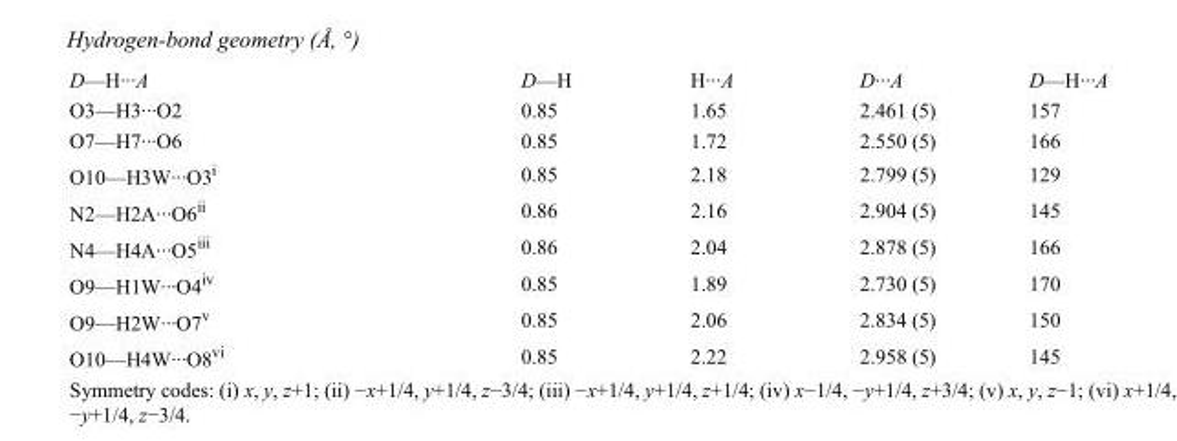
<table><tbody><tr><td>D—H···A</td><td>D—H</td><td>H···A</td><td>D···A</td><td>D—H···A</td></tr><tr><td>O3—H3···O2</td><td>0.85</td><td>1.65</td><td>2.461 (5)</td><td>157</td></tr><tr><td>O7—H7···O6</td><td>0.85</td><td>1.72</td><td>2.550 (5)</td><td>166</td></tr><tr><td>O10—H3W···O3<sup>i</sup></td><td>0.85</td><td>2.18</td><td>2.799 (5)</td><td>129</td></tr><tr><td>N2—H2A···O6<sup>ii</sup></td><td>0.86</td><td>2.16</td><td>2.904 (5)</td><td>145</td></tr><tr><td>N4—H4A···O5<sup>iii</sup></td><td>0.86</td><td>2.04</td><td>2.878 (5)</td><td>166</td></tr><tr><td>O9—H1W···O4<sup>iv</sup></td><td>0.85</td><td>1.89</td><td>2.730 (5)</td><td>170</td></tr><tr><td>O9—H2W···O7<sup>v</sup></td><td>0.85</td><td>2.06</td><td>2.834 (5)</td><td>150</td></tr><tr><td>O10—H4W···O8<sup>vi</sup></td><td>0.85</td><td>2.22</td><td>2.958 (5)</td><td>145</td></tr></tbody></table>